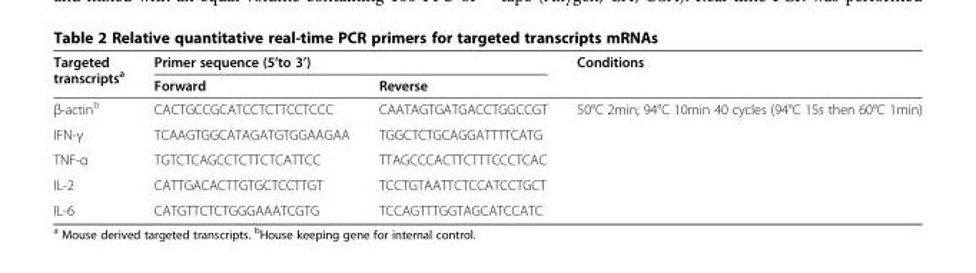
<table><thead><tr><td rowspan="2">Targeted transcripts<sup>a</sup></td><td colspan="2">Primer sequence (5’to 3’)</td><td rowspan="2">Conditions</td></tr><tr><td>Forward</td><td>Reverse</td></tr></thead><tbody><tr><td>β-actin<sup>b</sup></td><td>CACTGCCGCATCCTCTTCCTCCC</td><td>CAATAGTGATGACCTGGCCGT</td><td>50°C 2min; 94°C 10min 40 cycles (94°C 15s then 60°C 1min)</td></tr><tr><td>IFN-γ</td><td>TCAAGTGGCATAGATGTGGAAGAA</td><td>TGGCTCTGCAGGATTTTCATG</td><td></td></tr><tr><td>TNF-α</td><td>TGTCTCAGCCTCTTCTCATTCC</td><td>TTAGCCCACTTCTTTCCCTCAC</td><td></td></tr><tr><td>IL-2</td><td>CATTGACACTTGTGCTCCTTGT</td><td>TCCTGTAATTCTCCATCCTGCT</td><td></td></tr><tr><td>IL-6</td><td>CATGTTCTCTGGGAAATCGTG</td><td>TCCAGTTTGGTAGCATCCATC</td><td></td></tr></tbody></table>